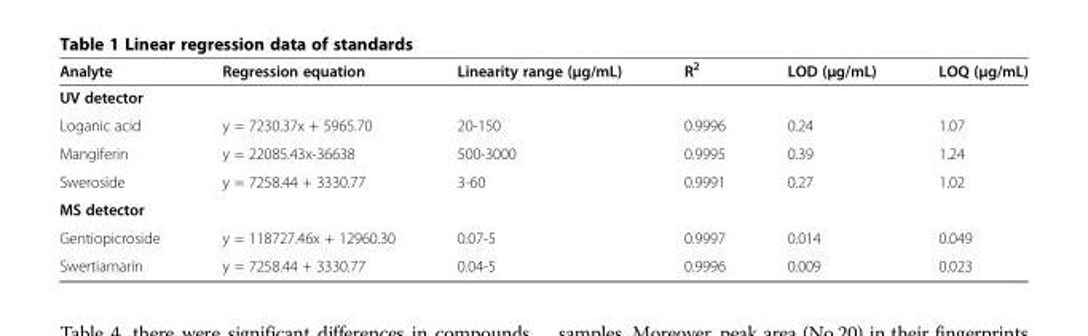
<table><thead><tr><td>Analyte</td><td>Regression equation</td><td>Linearity range (μg/mL)</td><td>R<sup>2</sup></td><td>LOD (μg/mL)</td><td>LOQ (μg/mL)</td></tr></thead><tbody><tr><td colspan="6">UV detector</td></tr><tr><td>Loganic acid</td><td>y = 7230.37x + 5965.70</td><td>20-150</td><td>0.9996</td><td>0.24</td><td>1.07</td></tr><tr><td>Mangiferin</td><td>y = 22085.43x-36638</td><td>500-3000</td><td>0.9995</td><td>0.39</td><td>1.24</td></tr><tr><td>Sweroside</td><td>y = 7258.44 + 3330.77</td><td>3-60</td><td>0.9991</td><td>0.27</td><td>1.02</td></tr><tr><td colspan="6">MS detector</td></tr><tr><td>Gentiopicroside</td><td>y = 118727.46x + 12960.30</td><td>0.07-5</td><td>0.9997</td><td>0.014</td><td>0.049</td></tr><tr><td>Swertiamarin</td><td>y = 7258.44 + 3330.77</td><td>0.04-5</td><td>0.9996</td><td>0.009</td><td>0.023</td></tr></tbody></table>